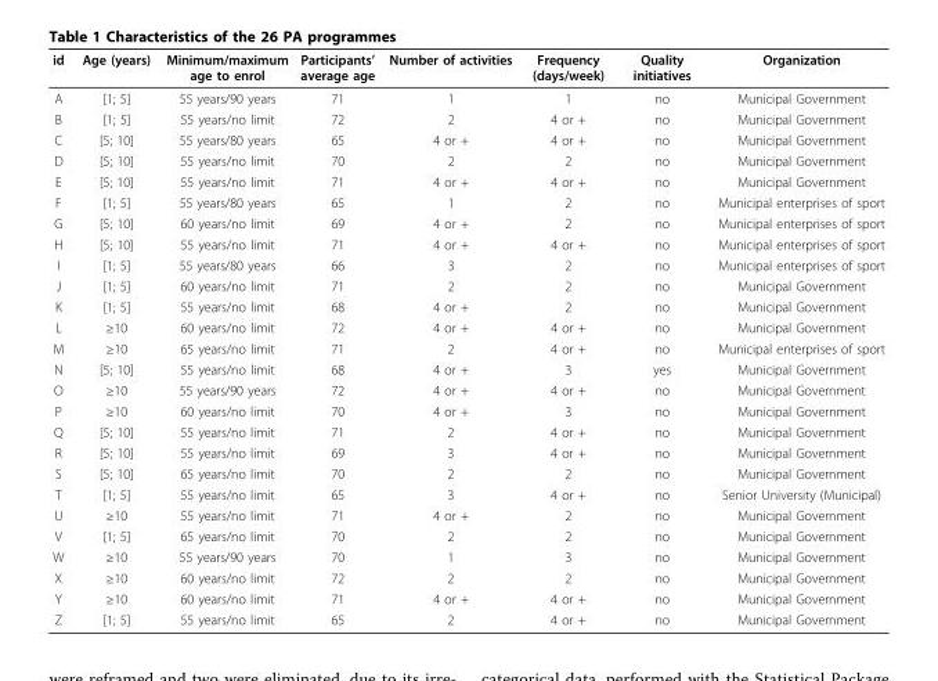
<table><thead><tr><td>id</td><td>Age (years)</td><td>Minimum/maximum age to enrol</td><td>Participants’ average age</td><td>Number of activities</td><td>Frequency (days/week)</td><td>Quality initiatives</td><td>Organization</td></tr></thead><tbody><tr><td>A</td><td>[1; 5]</td><td>55 years/90 years</td><td>71</td><td>1</td><td>1</td><td>no</td><td>Municipal Government</td></tr><tr><td>B</td><td>[1; 5]</td><td>55 years/no limit</td><td>72</td><td>2</td><td>4 or +</td><td>no</td><td>Municipal Government</td></tr><tr><td>C</td><td>[5; 10]</td><td>55 years/80 years</td><td>65</td><td>4 or +</td><td>4 or +</td><td>no</td><td>Municipal Government</td></tr><tr><td>D</td><td>[5; 10]</td><td>55 years/no limit</td><td>70</td><td>2</td><td>2</td><td>no</td><td>Municipal Government</td></tr><tr><td>E</td><td>[5; 10]</td><td>55 years/no limit</td><td>71</td><td>4 or +</td><td>4 or +</td><td>no</td><td>Municipal Government</td></tr><tr><td>F</td><td>[1; 5]</td><td>55 years/80 years</td><td>65</td><td>1</td><td>2</td><td>no</td><td>Municipal enterprises of sport</td></tr><tr><td>G</td><td>[5; 10]</td><td>60 years/no limit</td><td>69</td><td>4 or +</td><td>2</td><td>no</td><td>Municipal enterprises of sport</td></tr><tr><td>H</td><td>[5; 10]</td><td>55 years/no limit</td><td>71</td><td>4 or +</td><td>4 or +</td><td>no</td><td>Municipal enterprises of sport</td></tr><tr><td>I</td><td>[1; 5]</td><td>55 years/80 years</td><td>66</td><td>3</td><td>2</td><td>no</td><td>Municipal enterprises of sport</td></tr><tr><td>J</td><td>[1; 5]</td><td>60 years/no limit</td><td>71</td><td>2</td><td>2</td><td>no</td><td>Municipal Government</td></tr><tr><td>K</td><td>[1; 5]</td><td>55 years/no limit</td><td>68</td><td>4 or +</td><td>2</td><td>no</td><td>Municipal Government</td></tr><tr><td>L</td><td>≥10</td><td>60 years/no limit</td><td>72</td><td>4 or +</td><td>4 or +</td><td>no</td><td>Municipal Government</td></tr><tr><td>M</td><td>≥10</td><td>65 years/no limit</td><td>71</td><td>2</td><td>4 or +</td><td>no</td><td>Municipal enterprises of sport</td></tr><tr><td>N</td><td>[5; 10]</td><td>55 years/no limit</td><td>68</td><td>4 or +</td><td>3</td><td>yes</td><td>Municipal Government</td></tr><tr><td>O</td><td>≥10</td><td>55 years/90 years</td><td>72</td><td>4 or +</td><td>4 or +</td><td>no</td><td>Municipal Government</td></tr><tr><td>P</td><td>≥10</td><td>60 years/no limit</td><td>70</td><td>4 or +</td><td>3</td><td>no</td><td>Municipal Government</td></tr><tr><td>Q</td><td>[5; 10]</td><td>55 years/no limit</td><td>71</td><td>2</td><td>4 or +</td><td>no</td><td>Municipal Government</td></tr><tr><td>R</td><td>[5; 10]</td><td>55 years/no limit</td><td>69</td><td>3</td><td>4 or +</td><td>no</td><td>Municipal Government</td></tr><tr><td>S</td><td>[5; 10]</td><td>65 years/no limit</td><td>70</td><td>2</td><td>2</td><td>no</td><td>Municipal Government</td></tr><tr><td>T</td><td>[1; 5]</td><td>55 years/no limit</td><td>65</td><td>3</td><td>4 or +</td><td>no</td><td>Senior University (Municipal)</td></tr><tr><td>U</td><td>≥10</td><td>55 years/no limit</td><td>71</td><td>4 or +</td><td>2</td><td>no</td><td>Municipal Government</td></tr><tr><td>V</td><td>[1; 5]</td><td>65 years/no limit</td><td>70</td><td>2</td><td>2</td><td>no</td><td>Municipal Government</td></tr><tr><td>W</td><td>≥10</td><td>55 years/90 years</td><td>70</td><td>1</td><td>3</td><td>no</td><td>Municipal Government</td></tr><tr><td>X</td><td>≥10</td><td>60 years/no limit</td><td>72</td><td>2</td><td>2</td><td>no</td><td>Municipal Government</td></tr><tr><td>Y</td><td>≥10</td><td>60 years/no limit</td><td>71</td><td>4 or +</td><td>4 or +</td><td>no</td><td>Municipal Government</td></tr><tr><td>Z</td><td>[1; 5]</td><td>55 years/no limit</td><td>65</td><td>2</td><td>4 or +</td><td>no</td><td>Municipal Government</td></tr></tbody></table>